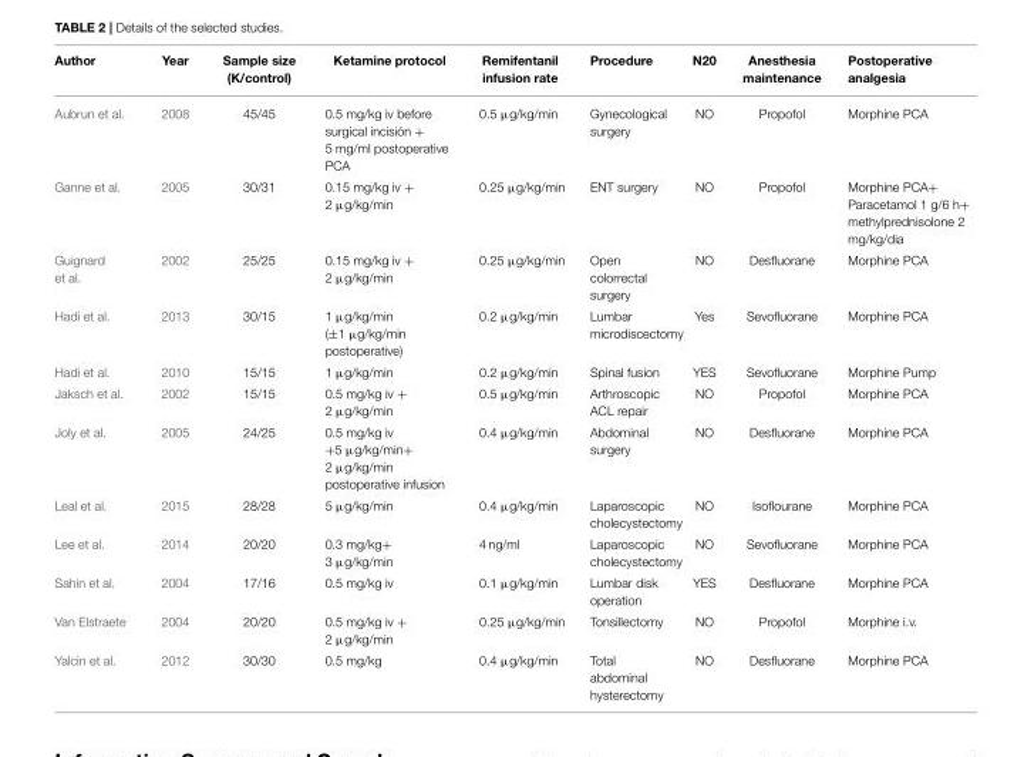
<table><thead><tr><td>Author</td><td>Year</td><td>Sample size (K/control)</td><td>Ketamine protocol</td><td>Remifentanil infusion rate</td><td>Procedure</td><td>N20</td><td>Anesthesia maintenance</td><td>Postoperative analgesia</td></tr></thead><tbody><tr><td>Aubrun et al.</td><td>2008</td><td>45/45</td><td>0.5 mg/kg iv before surgical incisión + 5 mg/ml postoperative PCA</td><td>0.5 µg/kg/min</td><td>Gynecological surgery</td><td>NO</td><td>Propofol</td><td>Morphine PCA</td></tr><tr><td>Ganne et al.</td><td>2005</td><td>30/31</td><td>0.15 mg/kg iv + 2 µg/kg/min</td><td>0.25 µg/kg/min</td><td>ENT surgery</td><td>NO</td><td>Propofol</td><td>Morphine PCA+ Paracetamol 1 g/6 h+ methylprednisolone 2 mg/kg/dia</td></tr><tr><td>Guignard et al.</td><td>2002</td><td>25/25</td><td>0.15 mg/kg iv + 2 µg/kg/min</td><td>0.25 µg/kg/min</td><td>Open colorrectal surgery</td><td>NO</td><td>Desfluorane</td><td>Morphine PCA</td></tr><tr><td>Hadi et al.</td><td>2013</td><td>30/15</td><td>1 µg/kg/min (±1 µg/kg/min postoperative)</td><td>0.2 µg/kg/min</td><td>Lumbar microdiscectomy</td><td>Yes</td><td>Sevofluorane</td><td>Morphine PCA</td></tr><tr><td>Hadi et al.</td><td>2010</td><td>15/15</td><td>1 µg/kg/min</td><td>0.2 µg/kg/min</td><td>Spinal fusion</td><td>YES</td><td>Sevofluorane</td><td>Morphine Pump</td></tr><tr><td>Jaksch et al.</td><td>2002</td><td>15/15</td><td>0.5 mg/kg iv + 2 µg/kg/min</td><td>0.5 µg/kg/min</td><td>Arthroscopic ACL repair</td><td>NO</td><td>Propofol</td><td>Morphine PCA</td></tr><tr><td>Joly et al.</td><td>2005</td><td>24/25</td><td>0.5 mg/kg iv +5 µg/kg/min+ 2 µg/kg/min postoperative infusion</td><td>0.4 µg/kg/min</td><td>Abdominal surgery</td><td>NO</td><td>Desfluorane</td><td>Morphine PCA</td></tr><tr><td>Leal et al.</td><td>2015</td><td>28/28</td><td>5 µg/kg/min</td><td>0.4 µg/kg/min</td><td>Laparoscopic cholecystectomy</td><td>NO</td><td>Isoflourane</td><td>Morphine PCA</td></tr><tr><td>Lee et al.</td><td>2014</td><td>20/20</td><td>0.3 mg/kg+ 3 µg/kg/min</td><td>4 ng/ml</td><td>Laparoscopic cholecystectomy</td><td>NO</td><td>Sevofluorane</td><td>Morphine PCA</td></tr><tr><td>Sahin et al.</td><td>2004</td><td>17/16</td><td>0.5 mg/kg iv</td><td>0.1 µg/kg/min</td><td>Lumbar disk operation</td><td>YES</td><td>Desfluorane</td><td>Morphine PCA</td></tr><tr><td>Van Elstraete</td><td>2004</td><td>20/20</td><td>0.5 mg/kg iv + 2 µg/kg/min</td><td>0.25 µg/kg/min</td><td>Tonsillectomy</td><td>NO</td><td>Propofol</td><td>Morphine i.v.</td></tr><tr><td>Yalcin et al.</td><td>2012</td><td>30/30</td><td>0.5 mg/kg</td><td>0.4 µg/kg/min</td><td>Total abdominal hysterectomy</td><td>NO</td><td>Desfluorane</td><td>Morphine PCA</td></tr></tbody></table>